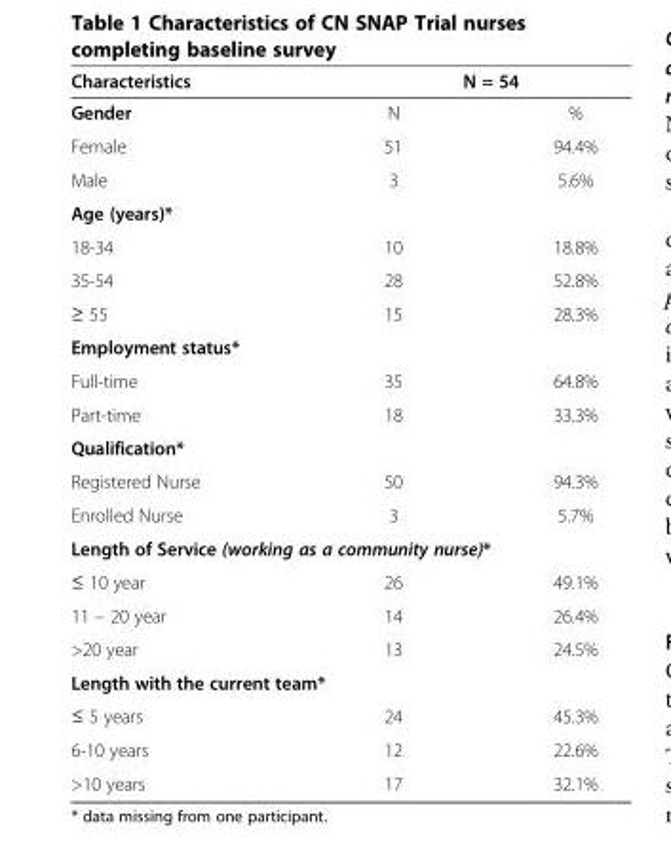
<table><thead><tr><td rowspan="2">Characteristics Gender</td><td colspan="2">N = 54</td></tr><tr><td>N</td><td>%</td></tr></thead><tbody><tr><td>Female</td><td>51</td><td>94.4%</td></tr><tr><td>Male</td><td>3</td><td>5.6%</td></tr><tr><td colspan="3">Age (years)*</td></tr><tr><td>18-34</td><td>10</td><td>18.8%</td></tr><tr><td>35-54</td><td>28</td><td>52.8%</td></tr><tr><td>≥ 55</td><td>15</td><td>28.3%</td></tr><tr><td colspan="3">Employment status*</td></tr><tr><td>Full-time</td><td>35</td><td>64.8%</td></tr><tr><td>Part-time</td><td>18</td><td>33.3%</td></tr><tr><td colspan="3">Qualification*</td></tr><tr><td>Registered Nurse</td><td>50</td><td>94.3%</td></tr><tr><td>Enrolled Nurse</td><td>3</td><td>5.7%</td></tr><tr><td colspan="3">Length of Service (working as a community nurse)*</td></tr><tr><td>≤ 10 year</td><td>26</td><td>49.1%</td></tr><tr><td>11 – 20 year</td><td>14</td><td>26.4%</td></tr><tr><td>&gt;20 year</td><td>13</td><td>24.5%</td></tr><tr><td colspan="3">Length with the current team*</td></tr><tr><td>≤ 5 years</td><td>24</td><td>45.3%</td></tr><tr><td>6-10 years</td><td>12</td><td>22.6%</td></tr><tr><td>&gt;10 years</td><td>17</td><td>32.1%</td></tr></tbody></table>